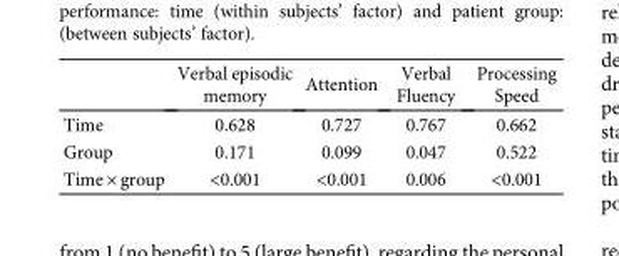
<table><thead><tr><td></td><td>Verbal episodic memory</td><td>Attention</td><td>Verbal Fluency</td><td>Processing Speed</td></tr></thead><tbody><tr><td>Time</td><td>0.628</td><td>0.727</td><td>0.767</td><td>0.662</td></tr><tr><td>Group</td><td>0.171</td><td>0.099</td><td>0.047</td><td>0.522</td></tr><tr><td>Time × group</td><td>&lt;0.001</td><td>&lt;0.001</td><td>0.006</td><td>&lt;0.001</td></tr></tbody></table>